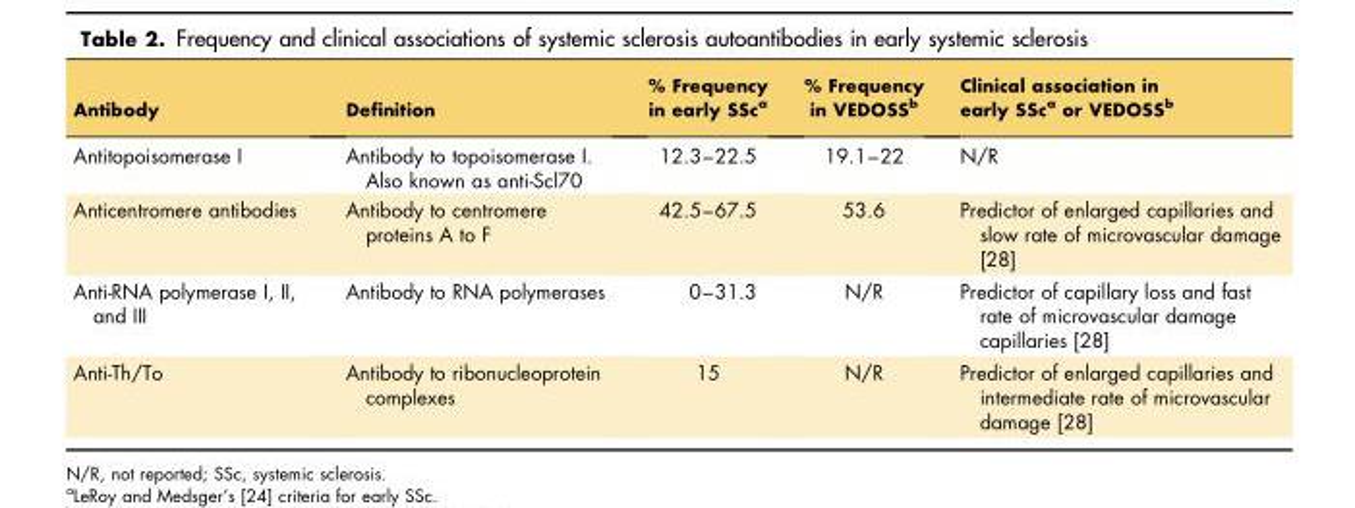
<table><thead><tr><td>Antibody</td><td>Definition</td><td>% Frequency in early SSc<sup>a</sup></td><td>% Frequency in VEDOSS<sup>b</sup></td><td>Clinical association in early SSc<sup>a</sup> or VEDOSS<sup>b</sup></td></tr></thead><tbody><tr><td>Antitopoisomerase I</td><td>Antibody to topoisomerase I. Also known as anti-Scl70</td><td>12.3–22.5</td><td>19.1–22</td><td>N/R</td></tr><tr><td>Anticentromere antibodies</td><td>Antibody to centromere proteins A to F</td><td>42.5–67.5</td><td>53.6</td><td>Predictor of enlarged capillaries and slow rate of microvascular damage [28]</td></tr><tr><td>Anti-RNA polymerase I, II, and III</td><td>Antibody to RNA polymerases</td><td>0–31.3</td><td>N/R</td><td>Predictor of capillary loss and fast rate of microvascular damage capillaries [28]</td></tr><tr><td>Anti-Th/To</td><td>Antibody to ribonucleoprotein complexes</td><td>15</td><td>N/R</td><td>Predictor of enlarged capillaries and intermediate rate of microvascular damage [28]</td></tr></tbody></table>